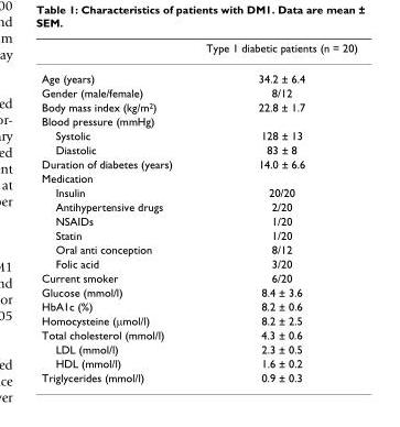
<table><thead><tr><td></td><td>Type 1 diabetic patients (n = 20)</td></tr></thead><tbody><tr><td>Age (years)</td><td>34.2 ± 6.4</td></tr><tr><td>Gender (male/female)</td><td>8/12</td></tr><tr><td>Body mass index (kg/m<sup>2</sup>)</td><td>22.8 ± 1.7</td></tr><tr><td colspan="2">Blood pressure (mmHg)</td></tr><tr><td>Systolic</td><td>128 ± 13</td></tr><tr><td>Diastolic</td><td>83 ± 8</td></tr><tr><td>Duration of diabetes (years)</td><td>14.0 ± 6.6</td></tr><tr><td colspan="2">Medication</td></tr><tr><td>Insulin</td><td>20/20</td></tr><tr><td>Antihypertensive drugs</td><td>2/20</td></tr><tr><td>NSAIDs</td><td>1/20</td></tr><tr><td>Statin</td><td>1/20</td></tr><tr><td>Oral anti conception</td><td>8/12</td></tr><tr><td>Folic acid</td><td>3/20</td></tr><tr><td>Current smoker</td><td>6/20</td></tr><tr><td>Glucose (mmol/l)</td><td>8.4 ± 3.6</td></tr><tr><td>HbA1c (%)</td><td>8.2 ± 0.6</td></tr><tr><td>Homocysteine (μmol/l)</td><td>8.2 ± 2.5</td></tr><tr><td>Total cholesterol (mmol/l)</td><td>4.3 ± 0.6</td></tr><tr><td>LDL (mmol/l)</td><td>2.3 ± 0.5</td></tr><tr><td>HDL (mmol/l)</td><td>1.6 ± 0.2</td></tr><tr><td>Triglycerides (mmol/l)</td><td>0.9 ± 0.3</td></tr></tbody></table>